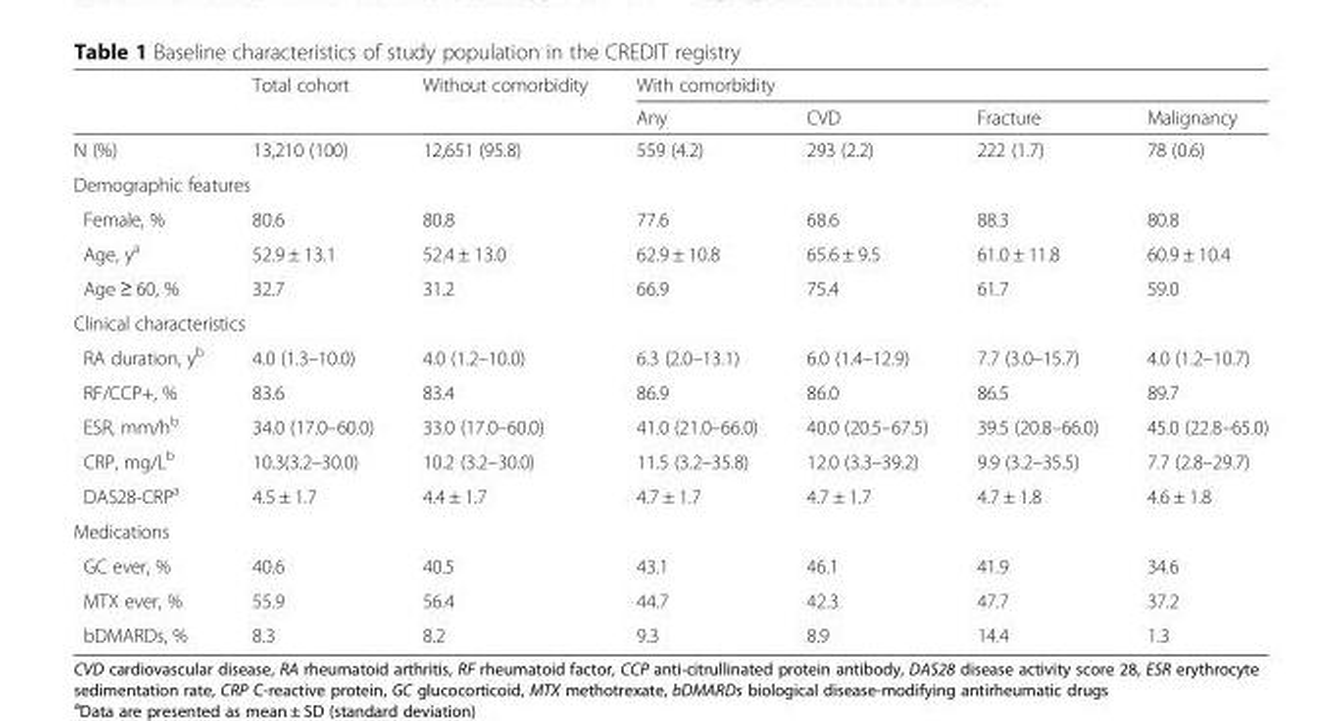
<table><thead><tr><td rowspan="2"></td><td rowspan="2">Total cohort</td><td rowspan="2">Without comorbidity</td><td colspan="4">With comorbidity</td></tr><tr><td>Any</td><td>CVD</td><td>Fracture</td><td>Malignancy</td></tr></thead><tbody><tr><td>N (%)</td><td>13,210 (100)</td><td>12,651 (95.8)</td><td>559 (4.2)</td><td>293 (2.2)</td><td>222 (1.7)</td><td>78 (0.6)</td></tr><tr><td colspan="7">Demographic features</td></tr><tr><td>Female, %</td><td>80.6</td><td>80.8</td><td>77.6</td><td>68.6</td><td>88.3</td><td>80.8</td></tr><tr><td>Age, y<sup>a</sup></td><td>52.9 ± 13.1</td><td>52.4 ± 13.0</td><td>62.9 ± 10.8</td><td>65.6 ± 9.5</td><td>61.0 ± 11.8</td><td>60.9 ± 10.4</td></tr><tr><td>Age ≥ 60, %</td><td>32.7</td><td>31.2</td><td>66.9</td><td>75.4</td><td>61.7</td><td>59.0</td></tr><tr><td colspan="7">Clinical characteristics</td></tr><tr><td>RA duration, y<sup>b</sup></td><td>4.0 (1.3–10.0)</td><td>4.0 (1.2–10.0)</td><td>6.3 (2.0–13.1)</td><td>6.0 (1.4–12.9)</td><td>7.7 (3.0–15.7)</td><td>4.0 (1.2–10.7)</td></tr><tr><td>RF/CCP+, %</td><td>83.6</td><td>83.4</td><td>86.9</td><td>86.0</td><td>86.5</td><td>89.7</td></tr><tr><td>ESR, mm/h<sup>b</sup></td><td>34.0 (17.0–60.0)</td><td>33.0 (17.0–60.0)</td><td>41.0 (21.0–66.0)</td><td>40.0 (20.5–67.5)</td><td>39.5 (20.8–66.0)</td><td>45.0 (22.8–65.0)</td></tr><tr><td>CRP, mg/L<sup>b</sup></td><td>10.3(3.2–30.0)</td><td>10.2 (3.2–30.0)</td><td>11.5 (3.2–35.8)</td><td>12.0 (3.3–39.2)</td><td>9.9 (3.2–35.5)</td><td>7.7 (2.8–29.7)</td></tr><tr><td>DAS28-CRP<sup>a</sup></td><td>4.5 ± 1.7</td><td>4.4 ± 1.7</td><td>4.7 ± 1.7</td><td>4.7 ± 1.7</td><td>4.7 ± 1.8</td><td>4.6 ± 1.8</td></tr><tr><td colspan="7">Medications</td></tr><tr><td>GC ever, %</td><td>40.6</td><td>40.5</td><td>43.1</td><td>46.1</td><td>41.9</td><td>34.6</td></tr><tr><td>MTX ever, %</td><td>55.9</td><td>56.4</td><td>44.7</td><td>42.3</td><td>47.7</td><td>37.2</td></tr><tr><td>bDMARDs, %</td><td>8.3</td><td>8.2</td><td>9.3</td><td>8.9</td><td>14.4</td><td>1.3</td></tr></tbody></table>